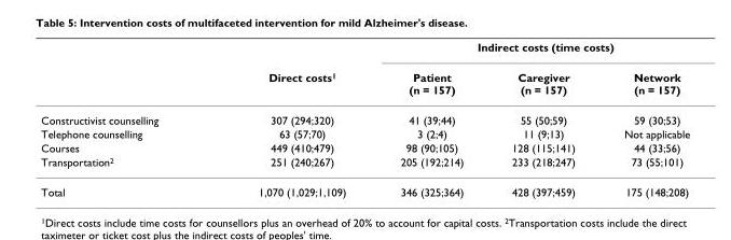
<table><thead><tr><td rowspan="2"></td><td rowspan="2">Direct costs<sup>1</sup></td><td colspan="3">Indirect costs (time costs)</td></tr><tr><td>Patient (n = 157)</td><td>Caregiver (n = 157)</td><td>Network (n = 157)</td></tr></thead><tbody><tr><td>Constructivist counselling</td><td>307 (294;320)</td><td>41 (39;44)</td><td>55 (50;59)</td><td>59 (30;53)</td></tr><tr><td>Telephone counselling</td><td>63 (57;70)</td><td>3 (2;4)</td><td>11 (9;13)</td><td>Not applicable</td></tr><tr><td>Courses</td><td>449 (410;479)</td><td>98 (90;105)</td><td>128 (115;141)</td><td>44 (33;56)</td></tr><tr><td>Transportation<sup>2</sup></td><td>251 (240;267)</td><td>205 (192;214)</td><td>233 (218;247)</td><td>73 (55;101)</td></tr><tr><td>Total</td><td>1,070 (1,029;1,109)</td><td>346 (325;364)</td><td>428 (397;459)</td><td>175 (148;208)</td></tr></tbody></table>